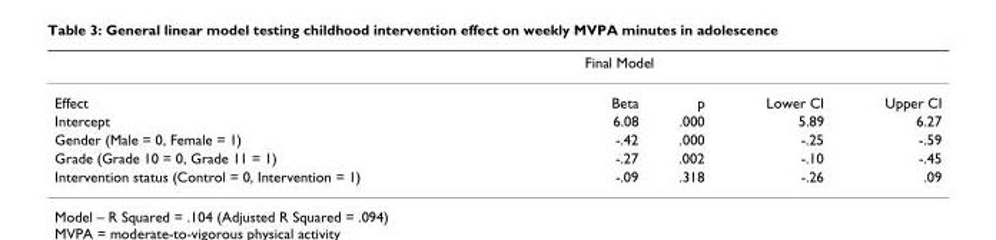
<table><thead><tr><td rowspan="2">Effect</td><td colspan="4">Final Model</td></tr><tr><td>Beta</td><td>p</td><td>Lower CI</td><td>Upper CI</td></tr></thead><tbody><tr><td>Intercept</td><td>6.08</td><td>.000</td><td>5.89</td><td>6.27</td></tr><tr><td>Gender (Male = 0, Female = 1)</td><td>-.42</td><td>.000</td><td>-.25</td><td>-.59</td></tr><tr><td>Grade (Grade 10 = 0, Grade 11 = 1)</td><td>-.27</td><td>.002</td><td>-.10</td><td>-.45</td></tr><tr><td>Intervention status (Control = 0, Intervention = 1)</td><td>-.09</td><td>.318</td><td>-.26</td><td>.09</td></tr></tbody></table>